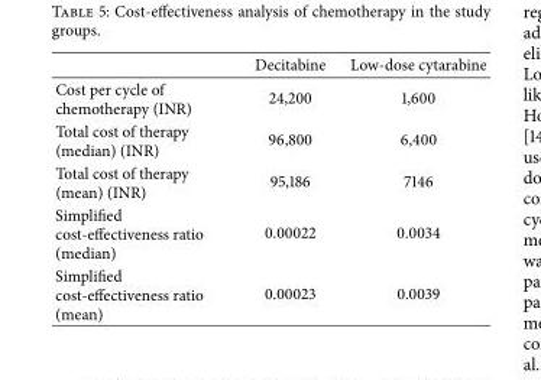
<table><thead><tr><td></td><td>Decitabine</td><td>Low-dose cytarabine</td></tr></thead><tbody><tr><td>Cost per cycle of chemotherapy (INR)</td><td>24,200</td><td>1,600</td></tr><tr><td>Total cost of therapy (median) (INR)</td><td>96,800</td><td>6,400</td></tr><tr><td>Total cost of therapy (mean) (INR)</td><td>95,186</td><td>7146</td></tr><tr><td>Simplified cost-effectiveness ratio (median)</td><td>0.00022</td><td>0.0034</td></tr><tr><td>Simplified cost-effectiveness ratio (mean)</td><td>0.00023</td><td>0.0039</td></tr></tbody></table>